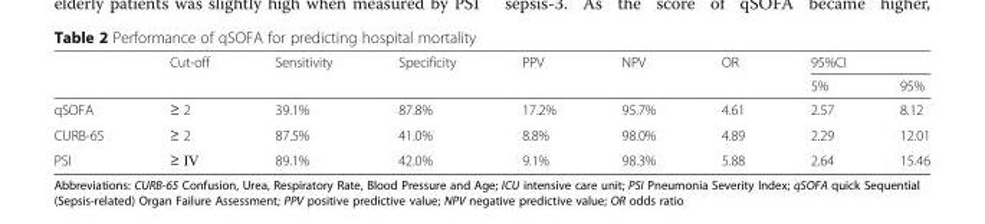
<table><thead><tr><td rowspan="2"></td><td rowspan="2">Cut-off</td><td rowspan="2">Sensitivity</td><td rowspan="2">Specificity</td><td rowspan="2">PPV</td><td rowspan="2">NPV</td><td rowspan="2">OR</td><td colspan="2">95%CI</td></tr><tr><td>5%</td><td>95%</td></tr></thead><tbody><tr><td>qSOFA</td><td>≥ 2</td><td>39.1%</td><td>87.8%</td><td>17.2%</td><td>95.7%</td><td>4.61</td><td>2.57</td><td>8.12</td></tr><tr><td>CURB-65</td><td>≥ 2</td><td>87.5%</td><td>41.0%</td><td>8.8%</td><td>98.0%</td><td>4.89</td><td>2.29</td><td>12.01</td></tr><tr><td>PSI</td><td>≥ IV</td><td>89.1%</td><td>42.0%</td><td>9.1%</td><td>98.3%</td><td>5.88</td><td>2.64</td><td>15.46</td></tr></tbody></table>